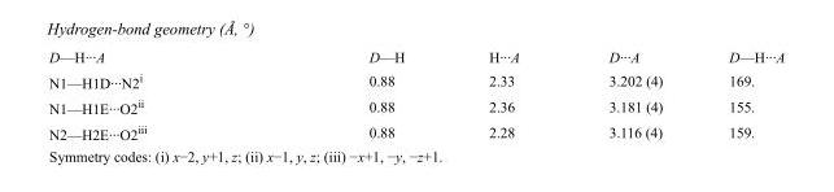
<table><tbody><tr><td>D—H···A</td><td>D—H</td><td>H···A</td><td>D···A</td><td>D—H···A</td></tr><tr><td>N1—H1D···N2<sup>i</sup></td><td>0.88</td><td>2.33</td><td>3.202 (4)</td><td>169.</td></tr><tr><td>N1—H1E···O2<sup>ii</sup></td><td>0.88</td><td>2.36</td><td>3.181 (4)</td><td>155.</td></tr><tr><td>N2—H2E···O2<sup>iii</sup></td><td>0.88</td><td>2.28</td><td>3.116 (4)</td><td>159.</td></tr></tbody></table>